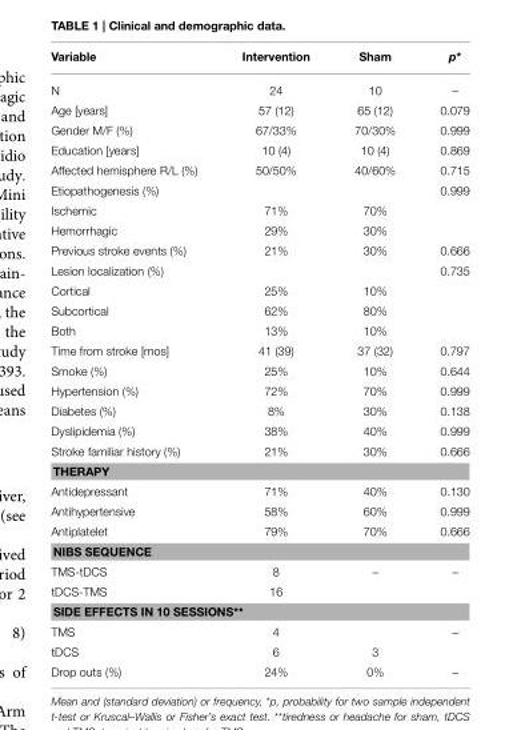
<table><thead><tr><td>Variable</td><td>Intervention</td><td>Sham</td><td>p*</td></tr></thead><tbody><tr><td>N</td><td>24</td><td>10</td><td>–</td></tr><tr><td>Age [years]</td><td>57 (12)</td><td>65 (12)</td><td>0.079</td></tr><tr><td>Gender M/F (%)</td><td>67/33%</td><td>70/30%</td><td>0.999</td></tr><tr><td>Education [years]</td><td>10 (4)</td><td>10 (4)</td><td>0.869</td></tr><tr><td>Affected hemisphere R/L (%)</td><td>50/50%</td><td>40/60%</td><td>0.715</td></tr><tr><td>Etiopathogenesis (%)</td><td></td><td></td><td>0.999</td></tr><tr><td>Ischemic</td><td>71%</td><td>70%</td><td></td></tr><tr><td>Hemorrhagic</td><td>29%</td><td>30%</td><td></td></tr><tr><td>Previous stroke events (%)</td><td>21%</td><td>30%</td><td>0.666</td></tr><tr><td>Lesion localization (%)</td><td></td><td></td><td>0.735</td></tr><tr><td>Cortical</td><td>25%</td><td>10%</td><td></td></tr><tr><td>Subcortical</td><td>62%</td><td>80%</td><td></td></tr><tr><td>Both</td><td>13%</td><td>10%</td><td></td></tr><tr><td>Time from stroke [mos]</td><td>41 (39)</td><td>37 (32)</td><td>0.797</td></tr><tr><td>Smoke (%)</td><td>25%</td><td>10%</td><td>0.644</td></tr><tr><td>Hypertension (%)</td><td>72%</td><td>70%</td><td>0.999</td></tr><tr><td>Diabetes (%)</td><td>8%</td><td>30%</td><td>0.138</td></tr><tr><td>Dyslipidemia (%)</td><td>38%</td><td>40%</td><td>0.999</td></tr><tr><td>Stroke familiar history (%)</td><td>21%</td><td>30%</td><td>0.666</td></tr><tr><td colspan="4">THERAPY</td></tr><tr><td>Antidepressant</td><td>71%</td><td>40%</td><td>0.130</td></tr><tr><td>Antihypertensive</td><td>58%</td><td>60%</td><td>0.999</td></tr><tr><td>Antiplatelet</td><td>79%</td><td>70%</td><td>0.666</td></tr><tr><td colspan="4">NIBS SEQUENCE</td></tr><tr><td>TMS-tDCS</td><td>8</td><td>–</td><td>–</td></tr><tr><td>tDCS-TMS</td><td>16</td><td></td><td></td></tr><tr><td colspan="4">SIDE EFFECTS IN 10 SESSIONS**</td></tr><tr><td>TMS</td><td>4</td><td></td><td>–</td></tr><tr><td>tDCS</td><td>6</td><td>3</td><td></td></tr><tr><td>Drop outs (%)</td><td>24%</td><td>0%</td><td>–</td></tr></tbody></table>